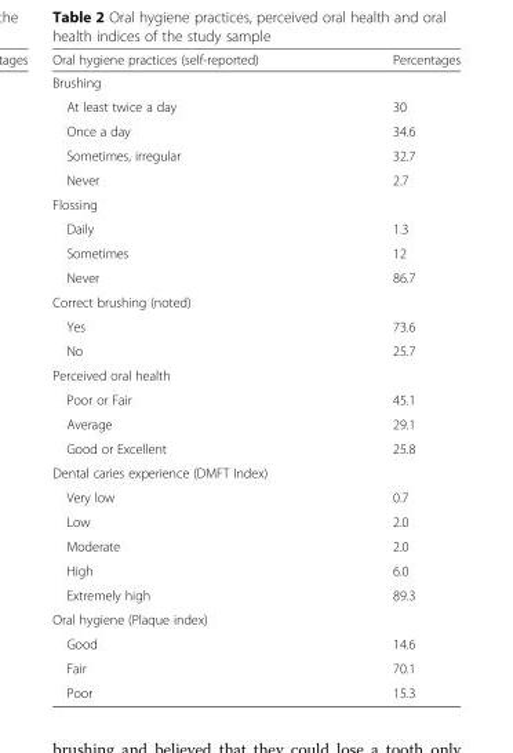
<table><thead><tr><td>Oral hygiene practices (self-reported)</td><td>Percentages</td></tr></thead><tbody><tr><td colspan="2">Brushing</td></tr><tr><td>At least twice a day</td><td>30</td></tr><tr><td>Once a day</td><td>34.6</td></tr><tr><td>Sometimes, irregular</td><td>32.7</td></tr><tr><td>Never</td><td>2.7</td></tr><tr><td colspan="2">Flossing</td></tr><tr><td>Daily</td><td>1.3</td></tr><tr><td>Sometimes</td><td>12</td></tr><tr><td>Never</td><td>86.7</td></tr><tr><td colspan="2">Correct brushing (noted)</td></tr><tr><td>Yes</td><td>73.6</td></tr><tr><td>No</td><td>25.7</td></tr><tr><td colspan="2">Perceived oral health</td></tr><tr><td>Poor or Fair</td><td>45.1</td></tr><tr><td>Average</td><td>29.1</td></tr><tr><td>Good or Excellent</td><td>25.8</td></tr><tr><td colspan="2">Dental caries experience (DMFT Index)</td></tr><tr><td>Very low</td><td>0.7</td></tr><tr><td>Low</td><td>2.0</td></tr><tr><td>Moderate</td><td>2.0</td></tr><tr><td>High</td><td>6.0</td></tr><tr><td>Extremely high</td><td>89.3</td></tr><tr><td colspan="2">Oral hygiene (Plaque index)</td></tr><tr><td>Good</td><td>14.6</td></tr><tr><td>Fair</td><td>70.1</td></tr><tr><td>Poor</td><td>15.3</td></tr></tbody></table>